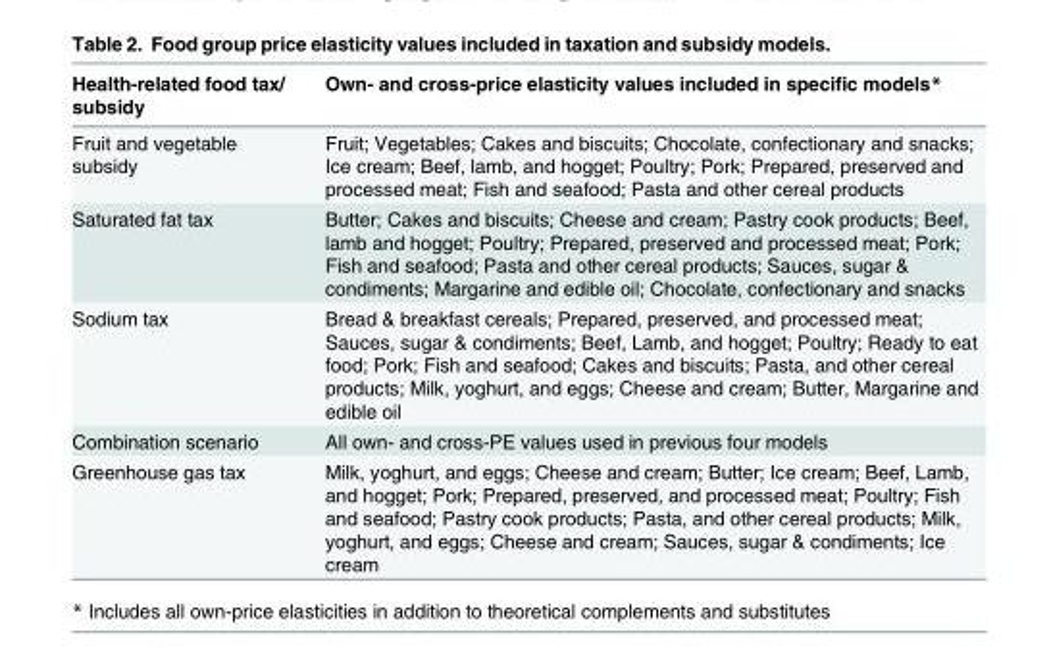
<table><thead><tr><td>Health-related food tax/ subsidy</td><td>Own- and cross-price elasticity values included in specific models*</td></tr></thead><tbody><tr><td>Fruit and vegetable subsidy</td><td>Fruit; Vegetables; Cakes and biscuits; Chocolate, confectionary and snacks; Ice cream; Beef, lamb, and hogget; Poultry; Pork; Prepared, preserved and processed meat; Fish and seafood; Pasta and other cereal products</td></tr><tr><td>Saturated fat tax</td><td>Butter; Cakes and biscuits; Cheese and cream; Pastry cook products; Beef, lamb and hogget; Poultry; Prepared, preserved and processed meat; Pork; Fish and seafood; Pasta and other cereal products; Sauces, sugar &amp; condiments; Margarine and edible oil; Chocolate, confectionary and snacks</td></tr><tr><td>Sodium tax</td><td>Bread &amp; breakfast cereals; Prepared, preserved, and processed meat; Sauces, sugar &amp; condiments; Beef, Lamb, and hogget; Poultry; Ready to eat food; Pork; Fish and seafood; Cakes and biscuits; Pasta, and other cereal products; Milk, yoghurt, and eggs; Cheese and cream; Butter, Margarine and edible oil</td></tr><tr><td>Combination scenario</td><td>All own- and cross-PE values used in previous four models</td></tr><tr><td>Greenhouse gas tax</td><td>Milk, yoghurt, and eggs; Cheese and cream; Butter; Ice cream; Beef, Lamb, and hogget; Pork; Prepared, preserved, and processed meat; Poultry; Fish and seafood; Pastry cook products; Pasta, and other cereal products; Milk, yoghurt, and eggs; Cheese and cream; Sauces, sugar &amp; condiments; Ice cream</td></tr></tbody></table>